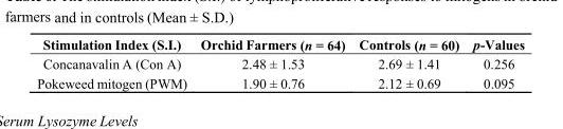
<table><thead><tr><td>Stimulation Index (S.I.)</td><td>Orchid Farmers (n = 64)</td><td>Controls (n = 60)</td><td>p-Values</td></tr></thead><tbody><tr><td>Concanavalin A (Con A)</td><td>2.48 ± 1.53</td><td>2.69 ± 1.41</td><td>0.256</td></tr><tr><td>Pokeweed mitogen (PWM)</td><td>1.90 ± 0.76</td><td>2.12 ± 0.69</td><td>0.095</td></tr></tbody></table>